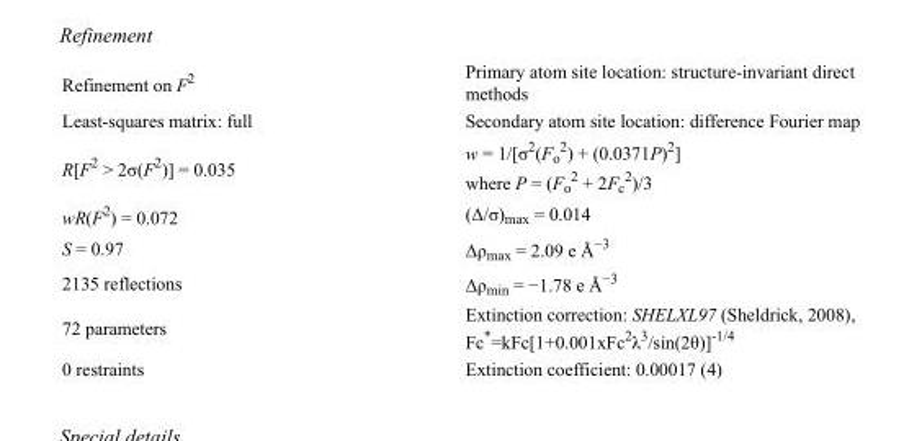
<table><tbody><tr><td>Refinement on F<sup>2</sup></td><td>Primary atom site location: structure-invariant direct methods</td></tr><tr><td>Least-squares matrix: full</td><td>Secondary atom site location: difference Fourier map</td></tr><tr><td>R[F<sup>2</sup> &gt; 2σ(F<sup>2</sup>)] = 0.035</td><td>w = 1/[σ<sup>2</sup>(F<sub>o</sub> <sup>2</sup>) + (0.0371P)<sup>2</sup>] where P = (F<sub>o</sub> <sup>2</sup> + 2F<sub>c</sub> <sup>2</sup>)/3</td></tr><tr><td>wR(F<sup>2</sup>) = 0.072</td><td>(Δ/σ)<sub>max</sub> = 0.014</td></tr><tr><td>S = 0.97</td><td>Δρ<sub>max</sub> = 2.09 e Å<sup>−3</sup></td></tr><tr><td>2135 reflections</td><td>Δρ<sub>min</sub> = −1.78 e Å<sup>−3</sup></td></tr><tr><td>72 parameters</td><td>Extinction correction: SHELXL97 (Sheldrick, 2008), Fc*=kFc[1+0.001xFc<sup>2</sup>λ<sup>3</sup>/sin(2θ)]<sup>-1/4</sup></td></tr><tr><td>0 restraints</td><td>Extinction coefficient: 0.00017 (4)</td></tr></tbody></table>